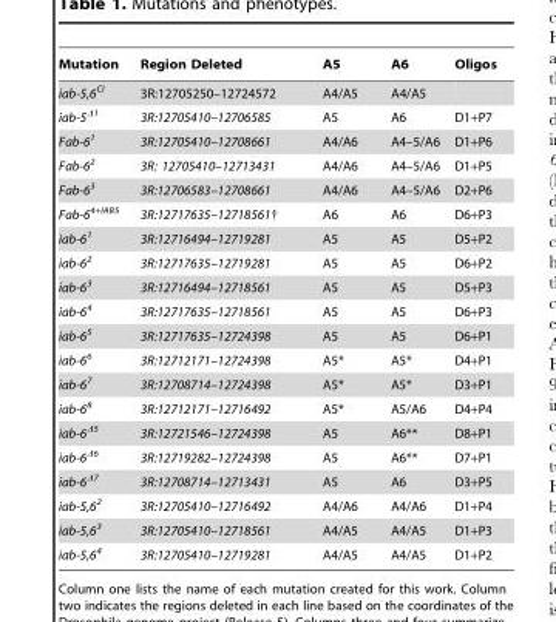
<table><thead><tr><td>Mutation</td><td>Region Deleted</td><td>A5</td><td>A6</td><td>Oligos</td></tr></thead><tbody><tr><td>iab-5,6<sup>CI</sup></td><td>3R:12705250–12724572</td><td>A4/A5</td><td>A4/A5</td><td></td></tr><tr><td>iab-5<sup>Δ1</sup></td><td>3R:12705410–12706585</td><td>A5</td><td>A6</td><td>D1+P7</td></tr><tr><td>Fab-6<sup>1</sup></td><td>3R:12705410–12708661</td><td>A4/A6</td><td>A4–5/A6</td><td>D1+P6</td></tr><tr><td>Fab-6<sup>2</sup></td><td>3R: 12705410–12713431</td><td>A4/A6</td><td>A4–5/A6</td><td>D1+P5</td></tr><tr><td>Fab-6<sup>3</sup></td><td>3R:12706583–12708661</td><td>A4/A6</td><td>A4–5/A6</td><td>D2+P6</td></tr><tr><td>Fab-6<sup>4+IAB5</sup></td><td>3R:12717635–12718561†</td><td>A6</td><td>A6</td><td>D6+P3</td></tr><tr><td>iab-6<sup>1</sup></td><td>3R:12716494–12719281</td><td>A5</td><td>A5</td><td>D5+P2</td></tr><tr><td>iab-6<sup>2</sup></td><td>3R:12717635–12719281</td><td>A5</td><td>A5</td><td>D6+P2</td></tr><tr><td>iab-6<sup>3</sup></td><td>3R:12716494–12718561</td><td>A5</td><td>A5</td><td>D5+P3</td></tr><tr><td>iab-6<sup>4</sup></td><td>3R:12717635–12718561</td><td>A5</td><td>A5</td><td>D6+P3</td></tr><tr><td>iab-6<sup>5</sup></td><td>3R:12717635–12724398</td><td>A5</td><td>A5</td><td>D6+P1</td></tr><tr><td>iab-6<sup>6</sup></td><td>3R:12712171–12724398</td><td>A5*</td><td>A5*</td><td>D4+P1</td></tr><tr><td>iab-6<sup>7</sup></td><td>3R:12708714–12724398</td><td>A5*</td><td>A5*</td><td>D3+P1</td></tr><tr><td>iab-6<sup>8</sup></td><td>3R:12712171–12716492</td><td>A5*</td><td>A5/A6</td><td>D4+P4</td></tr><tr><td>iab-6<sup>Δ5</sup></td><td>3R:12721546–12724398</td><td>A5</td><td>A6**</td><td>D8+P1</td></tr><tr><td>iab-6<sup>Δ6</sup></td><td>3R:12719282–12724398</td><td>A5</td><td>A6**</td><td>D7+P1</td></tr><tr><td>iab-6<sup>Δ7</sup></td><td>3R:12708714–12713431</td><td>A5</td><td>A6</td><td>D3+P5</td></tr><tr><td>iab-5,6<sup>2</sup></td><td>3R:12705410–12716492</td><td>A4/A6</td><td>A4/A6</td><td>D1+P4</td></tr><tr><td>iab-5,6<sup>3</sup></td><td>3R:12705410–12718561</td><td>A4/A5</td><td>A4/A5</td><td>D1+P3</td></tr><tr><td>iab-5,6<sup>4</sup></td><td>3R:12705410–12719281</td><td>A4/A5</td><td>A4/A5</td><td>D1+P2</td></tr></tbody></table>